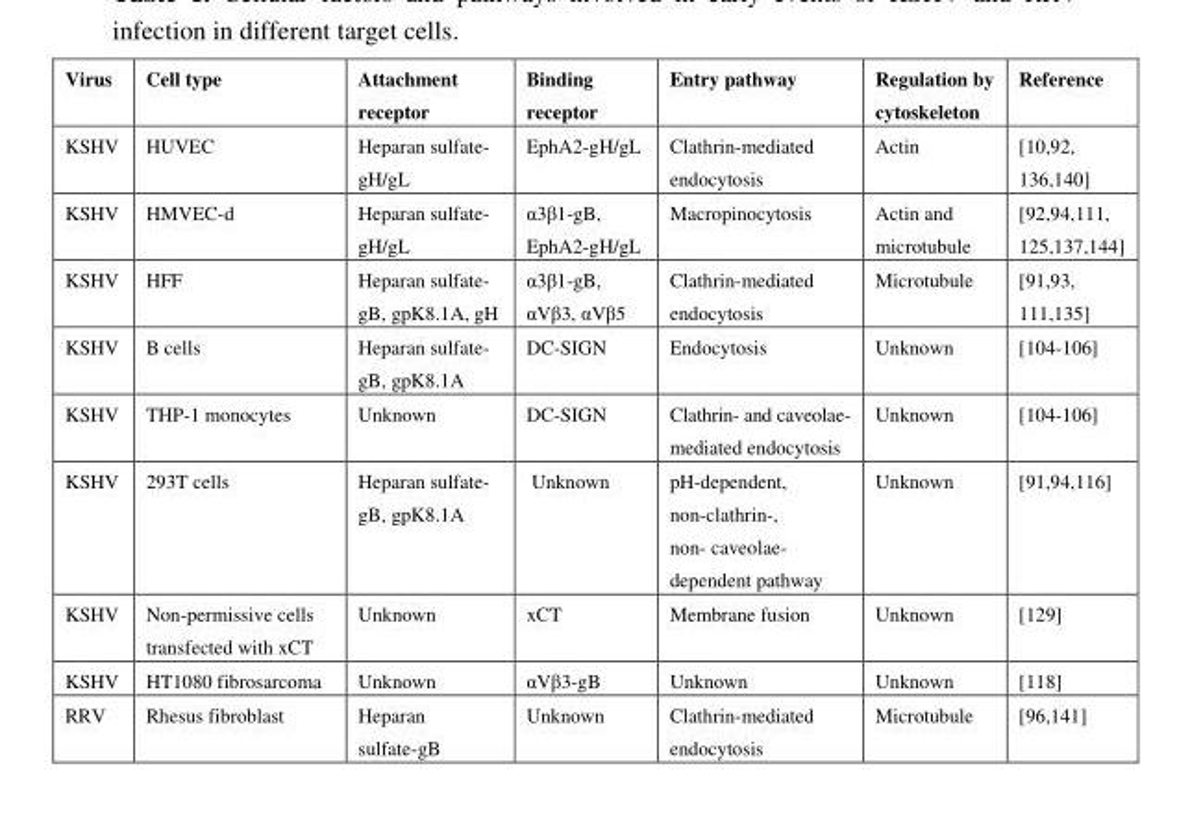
<table><thead><tr><td>Virus</td><td>Cell type</td><td>Attachment receptor</td><td>Binding receptor</td><td>Entry pathway</td><td>Regulation by cytoskeleton</td><td>Reference</td></tr></thead><tbody><tr><td>KSHV</td><td>HUVEC</td><td>Heparan sulfate- gH/gL</td><td>EphA2-gH/gL</td><td>Clathrin-mediated endocytosis</td><td>Actin</td><td>[10,92, 136,140]</td></tr><tr><td>KSHV</td><td>HMVEC-d</td><td>Heparan sulfate- gH/gL</td><td>α3β1-gB, EphA2-gH/gL</td><td>Macropinocytosis</td><td>Actin and microtubule</td><td>[92,94,111, 125,137,144]</td></tr><tr><td>KSHV</td><td>HFF</td><td>Heparan sulfate- gB, gpK8.1A, gH</td><td>α3β1-gB, αVβ3, αVβ5</td><td>Clathrin-mediated endocytosis</td><td>Microtubule</td><td>[91,93, 111,135]</td></tr><tr><td>KSHV</td><td>B cells</td><td>Heparan sulfate- gB, gpK8.1A</td><td>DC-SIGN</td><td>Endocytosis</td><td>Unknown</td><td>[104-106]</td></tr><tr><td>KSHV</td><td>THP-1 monocytes</td><td>Unknown</td><td>DC-SIGN</td><td>Clathrin- and caveolae- mediated endocytosis</td><td>Unknown</td><td>[104-106]</td></tr><tr><td>KSHV</td><td>293T cells</td><td>Heparan sulfate- gB, gpK8.1A</td><td>Unknown</td><td>pH-dependent, non-clathrin-, non- caveolae- dependent pathway</td><td>Unknown</td><td>[91,94,116]</td></tr><tr><td>KSHV</td><td>Non-permissive cells transfected with xCT</td><td>Unknown</td><td>xCT</td><td>Membrane fusion</td><td>Unknown</td><td>[129]</td></tr><tr><td>KSHV</td><td>HT1080 fibrosarcoma</td><td>Unknown</td><td>αVβ3-gB</td><td>Unknown</td><td>Unknown</td><td>[118]</td></tr><tr><td>RRV</td><td>Rhesus fibroblast</td><td>Heparan sulfate-gB</td><td>Unknown</td><td>Clathrin-mediated endocytosis</td><td>Microtubule</td><td>[96,141]</td></tr></tbody></table>